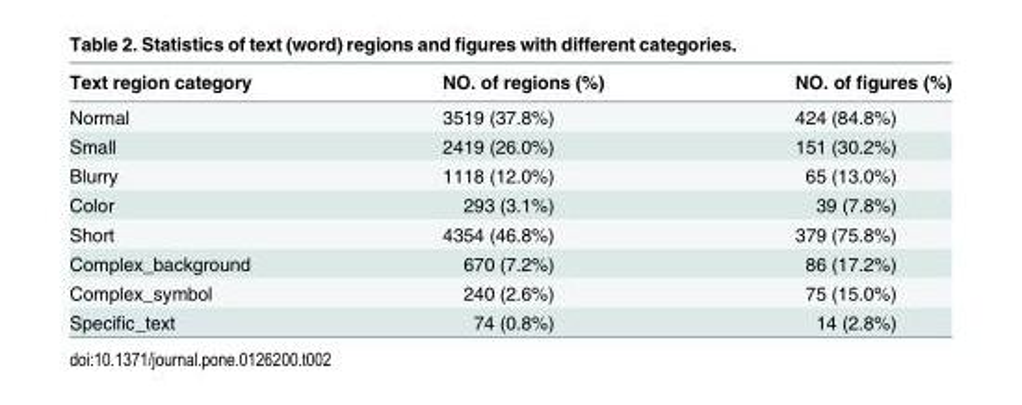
<table><thead><tr><td>Text region category</td><td>NO. of regions (%)</td><td>NO. of figures (%)</td></tr></thead><tbody><tr><td>Normal</td><td>3519 (37.8%)</td><td>424 (84.8%)</td></tr><tr><td>Small</td><td>2419 (26.0%)</td><td>151 (30.2%)</td></tr><tr><td>Blurry</td><td>1118 (12.0%)</td><td>65 (13.0%)</td></tr><tr><td>Color</td><td>293 (3.1%)</td><td>39 (7.8%)</td></tr><tr><td>Short</td><td>4354 (46.8%)</td><td>379 (75.8%)</td></tr><tr><td>Complex_background</td><td>670 (7.2%)</td><td>86 (17.2%)</td></tr><tr><td>Complex_symbol</td><td>240 (2.6%)</td><td>75 (15.0%)</td></tr><tr><td>Specific_text</td><td>74 (0.8%)</td><td>14 (2.8%)</td></tr></tbody></table>